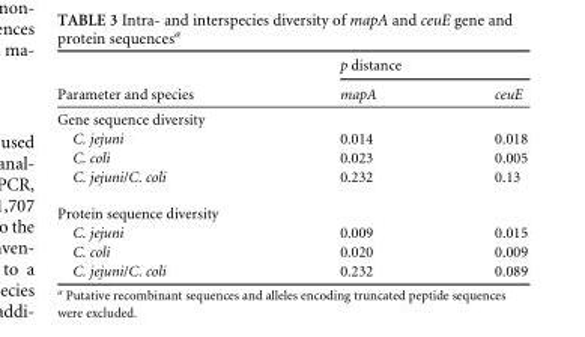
<table><thead><tr><td rowspan="2">Parameter and species</td><td colspan="2">p distance</td></tr><tr><td>mapA</td><td>ceuE</td></tr></thead><tbody><tr><td colspan="3">Gene sequence diversity</td></tr><tr><td>C. jejuni</td><td>0.014</td><td>0.018</td></tr><tr><td>C. coli</td><td>0.023</td><td>0.005</td></tr><tr><td>C. jejuni/C. coli</td><td>0.232</td><td>0.13</td></tr><tr><td colspan="3">Protein sequence diversity</td></tr><tr><td>C. jejuni</td><td>0.009</td><td>0.015</td></tr><tr><td>C. coli</td><td>0.020</td><td>0.009</td></tr><tr><td>C. jejuni/C. coli</td><td>0.232</td><td>0.089</td></tr></tbody></table>